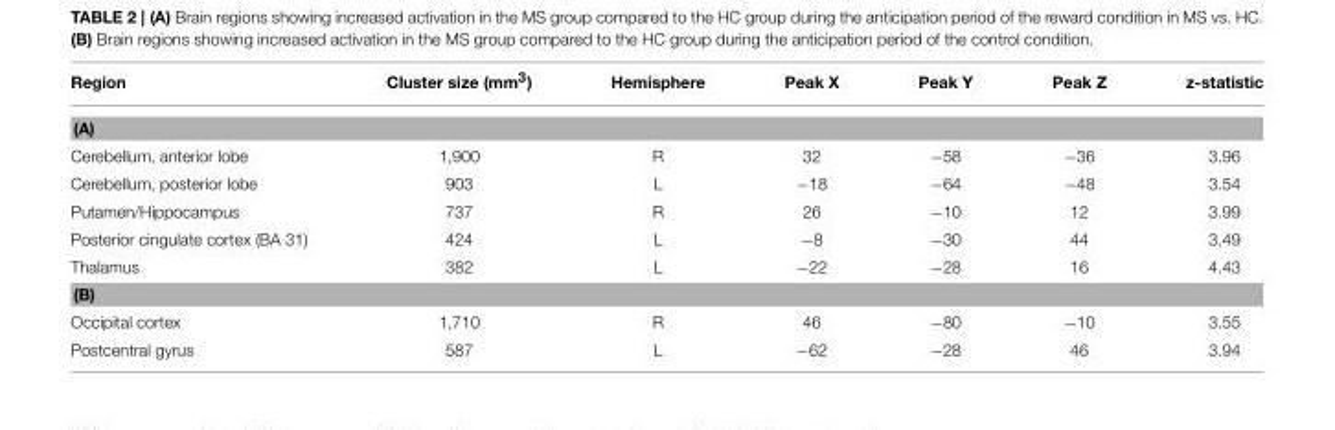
<table><thead><tr><td>Region</td><td>Cluster size (mm<sup>3</sup>)</td><td>Hemisphere</td><td>Peak X</td><td>Peak Y</td><td>Peak Z</td><td>z-statistic</td></tr></thead><tbody><tr><td colspan="7">(A)</td></tr><tr><td>Cerebellum, anterior lobe</td><td>1,900</td><td>R</td><td>32</td><td>−58</td><td>−36</td><td>3.96</td></tr><tr><td>Cerebellum, posterior lobe</td><td>903</td><td>L</td><td>−18</td><td>−64</td><td>−48</td><td>3.54</td></tr><tr><td>Putamen/Hippocampus</td><td>737</td><td>R</td><td>26</td><td>−10</td><td>12</td><td>3.99</td></tr><tr><td>Posterior cingulate cortex (BA 31)</td><td>424</td><td>L</td><td>−8</td><td>−30</td><td>44</td><td>3.49</td></tr><tr><td>Thalamus</td><td>382</td><td>L</td><td>−22</td><td>−28</td><td>16</td><td>4.43</td></tr><tr><td colspan="7">(B)</td></tr><tr><td>Occipital cortex</td><td>1,710</td><td>R</td><td>46</td><td>−80</td><td>−10</td><td>3.55</td></tr><tr><td>Postcentral gyrus</td><td>587</td><td>L</td><td>−62</td><td>−28</td><td>46</td><td>3.94</td></tr></tbody></table>